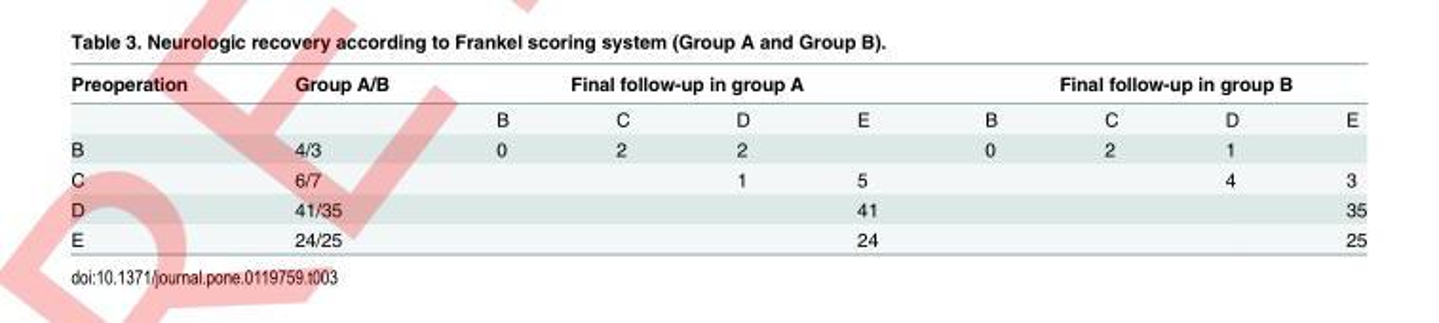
<table><thead><tr><td rowspan="2">Preoperation</td><td rowspan="2">Group A/B</td><td colspan="4">Final follow-up in group A</td><td colspan="4">Final follow-up in group B</td></tr><tr><td>B</td><td>C</td><td>D</td><td>E</td><td>B</td><td>C</td><td>D</td><td>E</td></tr></thead><tbody><tr><td>B</td><td>4/3</td><td>0</td><td>2</td><td>2</td><td></td><td>0</td><td>2</td><td>1</td><td></td></tr><tr><td>C</td><td>6/7</td><td></td><td></td><td>1</td><td>5</td><td></td><td></td><td>4</td><td>3</td></tr><tr><td>D</td><td>41/35</td><td></td><td></td><td></td><td>41</td><td></td><td></td><td></td><td>35</td></tr><tr><td>E</td><td>24/25</td><td></td><td></td><td></td><td>24</td><td></td><td></td><td></td><td>25</td></tr></tbody></table>